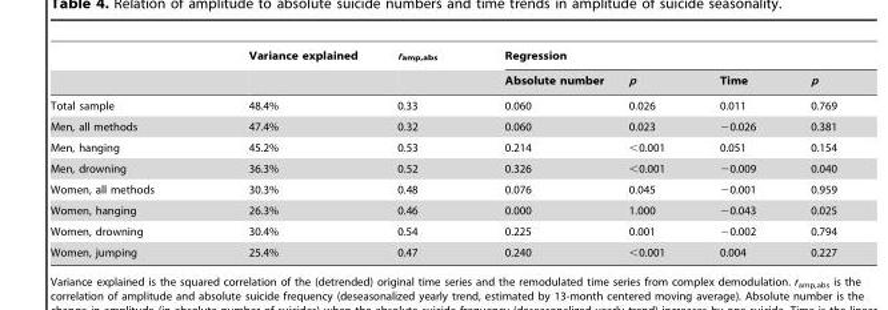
<table><thead><tr><td rowspan="2"></td><td rowspan="2">Variance explained</td><td rowspan="2">r<sub>amp,abs</sub></td><td colspan="4">Regression</td></tr><tr><td>Absolute number</td><td>p</td><td>Time</td><td>p</td></tr></thead><tbody><tr><td>Total sample</td><td>48.4%</td><td>0.33</td><td>0.060</td><td>0.026</td><td>0.011</td><td>0.769</td></tr><tr><td>Men, all methods</td><td>47.4%</td><td>0.32</td><td>0.060</td><td>0.023</td><td>−0.026</td><td>0.381</td></tr><tr><td>Men, hanging</td><td>45.2%</td><td>0.53</td><td>0.214</td><td>&lt;0.001</td><td>0.051</td><td>0.154</td></tr><tr><td>Men, drowning</td><td>36.3%</td><td>0.52</td><td>0.326</td><td>&lt;0.001</td><td>−0.009</td><td>0.040</td></tr><tr><td>Women, all methods</td><td>30.3%</td><td>0.48</td><td>0.076</td><td>0.045</td><td>−0.001</td><td>0.959</td></tr><tr><td>Women, hanging</td><td>26.3%</td><td>0.46</td><td>0.000</td><td>1.000</td><td>−0.043</td><td>0.025</td></tr><tr><td>Women, drowning</td><td>30.4%</td><td>0.54</td><td>0.225</td><td>0.001</td><td>−0.002</td><td>0.794</td></tr><tr><td>Women, jumping</td><td>25.4%</td><td>0.47</td><td>0.240</td><td>&lt;0.001</td><td>0.004</td><td>0.227</td></tr></tbody></table>